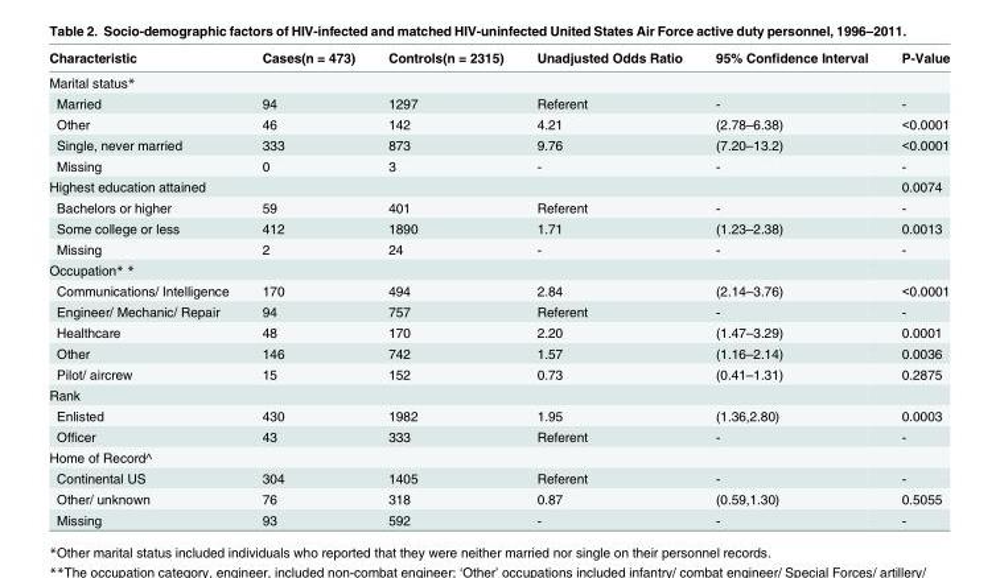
<table><thead><tr><td>Characteristic</td><td>Cases(n = 473)</td><td>Controls(n = 2315)</td><td>Unadjusted Odds Ratio</td><td>95% Confidence Interval</td><td>P-Value</td></tr></thead><tbody><tr><td colspan="6">Marital status*</td></tr><tr><td>Married</td><td>94</td><td>1297</td><td>Referent</td><td>-</td><td>-</td></tr><tr><td>Other</td><td>46</td><td>142</td><td>4.21</td><td>(2.78–6.38)</td><td>&lt;0.0001</td></tr><tr><td>Single, never married</td><td>333</td><td>873</td><td>9.76</td><td>(7.20–13.2)</td><td>&lt;0.0001</td></tr><tr><td>Missing</td><td>0</td><td>3</td><td>-</td><td>-</td><td>-</td></tr><tr><td>Highest education attained</td><td></td><td></td><td></td><td></td><td>0.0074</td></tr><tr><td>Bachelors or higher</td><td>59</td><td>401</td><td>Referent</td><td>-</td><td>-</td></tr><tr><td>Some college or less</td><td>412</td><td>1890</td><td>1.71</td><td>(1.23–2.38)</td><td>0.0013</td></tr><tr><td>Missing</td><td>2</td><td>24</td><td>-</td><td>-</td><td>-</td></tr><tr><td colspan="6">Occupation* *</td></tr><tr><td>Communications/ Intelligence</td><td>170</td><td>494</td><td>2.84</td><td>(2.14–3.76)</td><td>&lt;0.0001</td></tr><tr><td>Engineer/ Mechanic/ Repair</td><td>94</td><td>757</td><td>Referent</td><td>-</td><td>-</td></tr><tr><td>Healthcare</td><td>48</td><td>170</td><td>2.20</td><td>(1.47–3.29)</td><td>0.0001</td></tr><tr><td>Other</td><td>146</td><td>742</td><td>1.57</td><td>(1.16–2.14)</td><td>0.0036</td></tr><tr><td>Pilot/ aircrew</td><td>15</td><td>152</td><td>0.73</td><td>(0.41–1.31)</td><td>0.2875</td></tr><tr><td colspan="6">Rank</td></tr><tr><td>Enlisted</td><td>430</td><td>1982</td><td>1.95</td><td>(1.36,2.80)</td><td>0.0003</td></tr><tr><td>Officer</td><td>43</td><td>333</td><td>Referent</td><td>-</td><td>-</td></tr><tr><td colspan="6">Home of Record^</td></tr><tr><td>Continental US</td><td>304</td><td>1405</td><td>Referent</td><td>-</td><td>-</td></tr><tr><td>Other/ unknown</td><td>76</td><td>318</td><td>0.87</td><td>(0.59,1.30)</td><td>0.5055</td></tr><tr><td>Missing</td><td>93</td><td>592</td><td>-</td><td>-</td><td>-</td></tr></tbody></table>